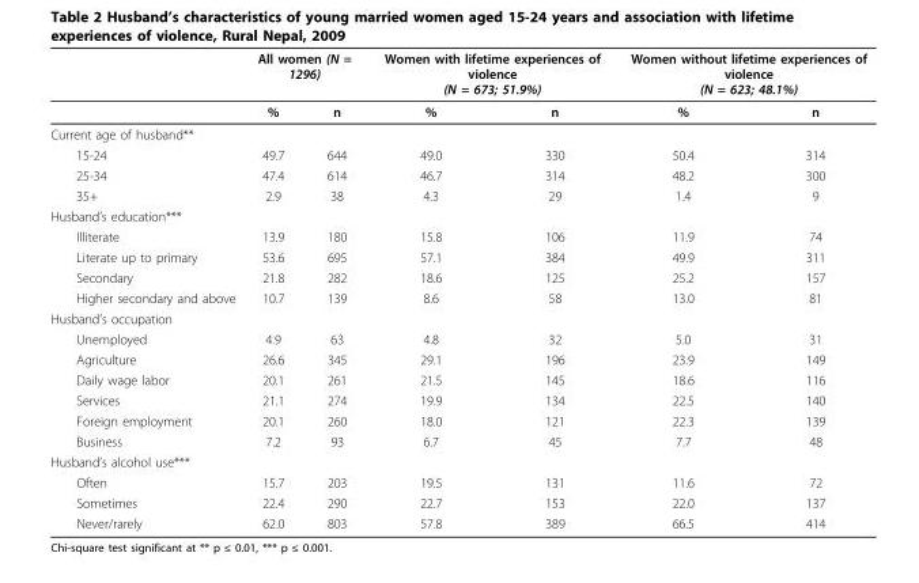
<table><thead><tr><td rowspan="2"></td><td colspan="2">All women (N = 1296)</td><td colspan="2">Women with lifetime experiences of violence (N = 673; 51.9%)</td><td colspan="2">Women without lifetime experiences of violence (N = 623; 48.1%)</td></tr><tr><td>%</td><td>n</td><td>%</td><td>n</td><td>%</td><td>n</td></tr></thead><tbody><tr><td colspan="7">Current age of husband**</td></tr><tr><td>15-24</td><td>49.7</td><td>644</td><td>49.0</td><td>330</td><td>50.4</td><td>314</td></tr><tr><td>25-34</td><td>47.4</td><td>614</td><td>46.7</td><td>314</td><td>48.2</td><td>300</td></tr><tr><td>35+</td><td>2.9</td><td>38</td><td>4.3</td><td>29</td><td>1.4</td><td>9</td></tr><tr><td colspan="7">Husband’s education***</td></tr><tr><td>Illiterate</td><td>13.9</td><td>180</td><td>15.8</td><td>106</td><td>11.9</td><td>74</td></tr><tr><td>Literate up to primary</td><td>53.6</td><td>695</td><td>57.1</td><td>384</td><td>49.9</td><td>311</td></tr><tr><td>Secondary</td><td>21.8</td><td>282</td><td>18.6</td><td>125</td><td>25.2</td><td>157</td></tr><tr><td>Higher secondary and above</td><td>10.7</td><td>139</td><td>8.6</td><td>58</td><td>13.0</td><td>81</td></tr><tr><td colspan="7">Husband’s occupation</td></tr><tr><td>Unemployed</td><td>4.9</td><td>63</td><td>4.8</td><td>32</td><td>5.0</td><td>31</td></tr><tr><td>Agriculture</td><td>26.6</td><td>345</td><td>29.1</td><td>196</td><td>23.9</td><td>149</td></tr><tr><td>Daily wage labor</td><td>20.1</td><td>261</td><td>21.5</td><td>145</td><td>18.6</td><td>116</td></tr><tr><td>Services</td><td>21.1</td><td>274</td><td>19.9</td><td>134</td><td>22.5</td><td>140</td></tr><tr><td>Foreign employment</td><td>20.1</td><td>260</td><td>18.0</td><td>121</td><td>22.3</td><td>139</td></tr><tr><td>Business</td><td>7.2</td><td>93</td><td>6.7</td><td>45</td><td>7.7</td><td>48</td></tr><tr><td colspan="7">Husband’s alcohol use***</td></tr><tr><td>Often</td><td>15.7</td><td>203</td><td>19.5</td><td>131</td><td>11.6</td><td>72</td></tr><tr><td>Sometimes</td><td>22.4</td><td>290</td><td>22.7</td><td>153</td><td>22.0</td><td>137</td></tr><tr><td>Never/rarely</td><td>62.0</td><td>803</td><td>57.8</td><td>389</td><td>66.5</td><td>414</td></tr></tbody></table>